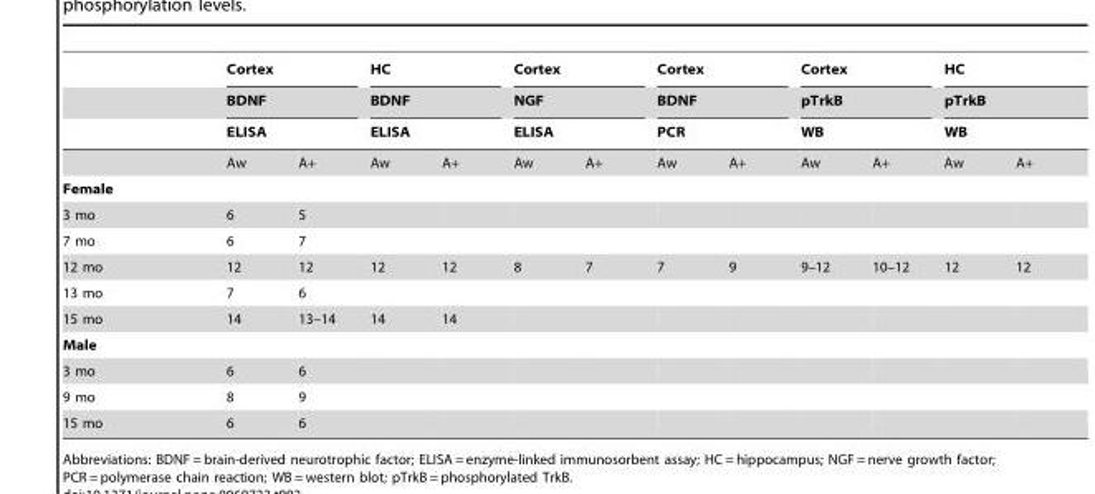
<table><thead><tr><td rowspan="4"></td><td rowspan="3" colspan="2">Cortex BDNF ELISA</td><td rowspan="3" colspan="2">HC BDNF ELISA</td><td rowspan="3" colspan="2">Cortex NGF ELISA</td><td rowspan="3" colspan="2">Cortex BDNF PCR</td><td rowspan="3" colspan="2">Cortex pTrkB WB</td><td rowspan="3" colspan="2">HC pTrkB WB</td></tr><tr></tr><tr></tr><tr><td>Aw</td><td>A+</td><td>Aw</td><td>A+</td><td>Aw</td><td>A+</td><td>Aw</td><td>A+</td><td>Aw</td><td>A+</td><td>Aw</td><td>A+</td></tr></thead><tbody><tr><td colspan="13">Female</td></tr><tr><td>3 mo</td><td>6</td><td>5</td><td></td><td></td><td></td><td></td><td></td><td></td><td></td><td></td><td></td><td></td></tr><tr><td>7 mo</td><td>6</td><td>7</td><td></td><td></td><td></td><td></td><td></td><td></td><td></td><td></td><td></td><td></td></tr><tr><td>12 mo</td><td>12</td><td>12</td><td>12</td><td>12</td><td>8</td><td>7</td><td>7</td><td>9</td><td>9–12</td><td>10–12</td><td>12</td><td>12</td></tr><tr><td>13 mo</td><td>7</td><td>6</td><td></td><td></td><td></td><td></td><td></td><td></td><td></td><td></td><td></td><td></td></tr><tr><td>15 mo</td><td>14</td><td>13–14</td><td>14</td><td>14</td><td></td><td></td><td></td><td></td><td></td><td></td><td></td><td></td></tr><tr><td colspan="13">Male</td></tr><tr><td>3 mo</td><td>6</td><td>6</td><td></td><td></td><td></td><td></td><td></td><td></td><td></td><td></td><td></td><td></td></tr><tr><td>9 mo</td><td>8</td><td>9</td><td></td><td></td><td></td><td></td><td></td><td></td><td></td><td></td><td></td><td></td></tr><tr><td>15 mo</td><td>6</td><td>6</td><td></td><td></td><td></td><td></td><td></td><td></td><td></td><td></td><td></td><td></td></tr></tbody></table>